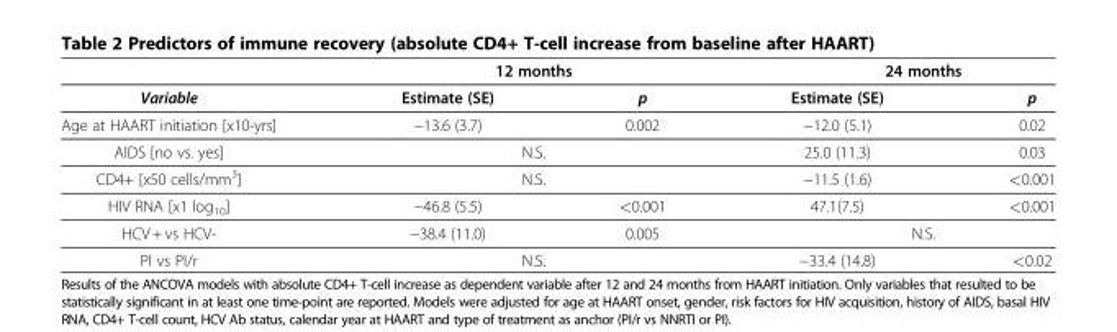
<table><thead><tr><td rowspan="2">Variable</td><td colspan="2">12 months</td><td colspan="2">24 months</td></tr><tr><td>Estimate (SE)</td><td>p</td><td>Estimate (SE)</td><td>p</td></tr></thead><tbody><tr><td>Age at HAART initiation [x10-yrs]</td><td>−13.6 (3.7)</td><td>0.002</td><td>−12.0 (5.1)</td><td>0.02</td></tr><tr><td>AIDS [no vs. yes]</td><td colspan="2">N.S.</td><td>25.0 (11.3)</td><td>0.03</td></tr><tr><td>CD4+ [x50 cells/mm<sup>3</sup>]</td><td colspan="2">N.S.</td><td>−11.5 (1.6)</td><td>&lt;0.001</td></tr><tr><td>HIV RNA [x1 log<sub>10</sub>]</td><td>−46.8 (5.5)</td><td>&lt;0.001</td><td>47.1(7.5)</td><td>&lt;0.001</td></tr><tr><td>HCV + vs HCV-</td><td>−38.4 (11.0)</td><td>0.005</td><td colspan="2">N.S.</td></tr><tr><td>PI vs PI/r</td><td colspan="2">N.S.</td><td>−33.4 (14.8)</td><td>&lt;0.02</td></tr></tbody></table>